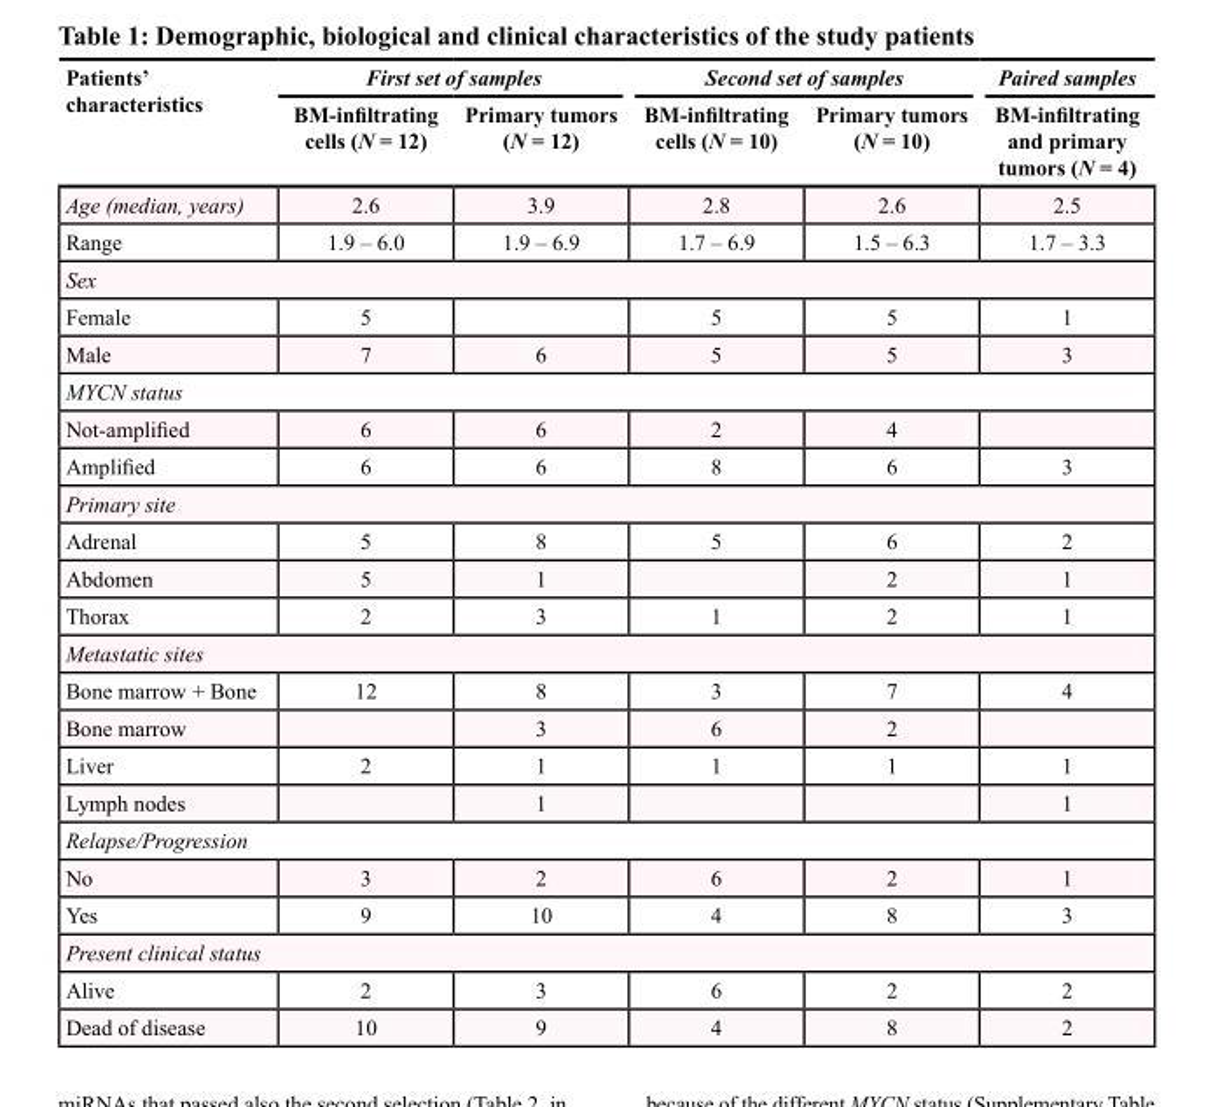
<table><thead><tr><td rowspan="2">Patients’ characteristics</td><td colspan="2">First set of samples</td><td colspan="2">Second set of samples</td><td rowspan="2">Paired samples BM-infiltrating and primary tumors (N = 4)</td></tr><tr><td>BM-infiltrating cells (N = 12)</td><td>Primary tumors (N = 12)</td><td>BM-infiltrating cells (N = 10)</td><td>Primary tumors (N = 10)</td></tr></thead><tbody><tr><td>Age (median, years)</td><td>2.6</td><td>3.9</td><td>2.8</td><td>2.6</td><td>2.5</td></tr><tr><td>Range</td><td>1.9 – 6.0</td><td>1.9 – 6.9</td><td>1.7 – 6.9</td><td>1.5 – 6.3</td><td>1.7 – 3.3</td></tr><tr><td colspan="6">Sex</td></tr><tr><td>Female</td><td>5</td><td></td><td>5</td><td>5</td><td>1</td></tr><tr><td>Male</td><td>7</td><td>6</td><td>5</td><td>5</td><td>3</td></tr><tr><td colspan="6">MYCN status</td></tr><tr><td>Not-amplified</td><td>6</td><td>6</td><td>2</td><td>4</td><td></td></tr><tr><td>Amplified</td><td>6</td><td>6</td><td>8</td><td>6</td><td>3</td></tr><tr><td colspan="6">Primary site</td></tr><tr><td>Adrenal</td><td>5</td><td>8</td><td>5</td><td>6</td><td>2</td></tr><tr><td>Abdomen</td><td>5</td><td>1</td><td></td><td>2</td><td>1</td></tr><tr><td>Thorax</td><td>2</td><td>3</td><td>1</td><td>2</td><td>1</td></tr><tr><td colspan="6">Metastatic sites</td></tr><tr><td>Bone marrow + Bone</td><td>12</td><td>8</td><td>3</td><td>7</td><td>4</td></tr><tr><td>Bone marrow</td><td></td><td>3</td><td>6</td><td>2</td><td></td></tr><tr><td>Liver</td><td>2</td><td>1</td><td>1</td><td>1</td><td>1</td></tr><tr><td>Lymph nodes</td><td></td><td>1</td><td></td><td></td><td>1</td></tr><tr><td colspan="6">Relapse/Progression</td></tr><tr><td>No</td><td>3</td><td>2</td><td>6</td><td>2</td><td>1</td></tr><tr><td>Yes</td><td>9</td><td>10</td><td>4</td><td>8</td><td>3</td></tr><tr><td colspan="6">Present clinical status</td></tr><tr><td>Alive</td><td>2</td><td>3</td><td>6</td><td>2</td><td>2</td></tr><tr><td>Dead of disease</td><td>10</td><td>9</td><td>4</td><td>8</td><td>2</td></tr></tbody></table>